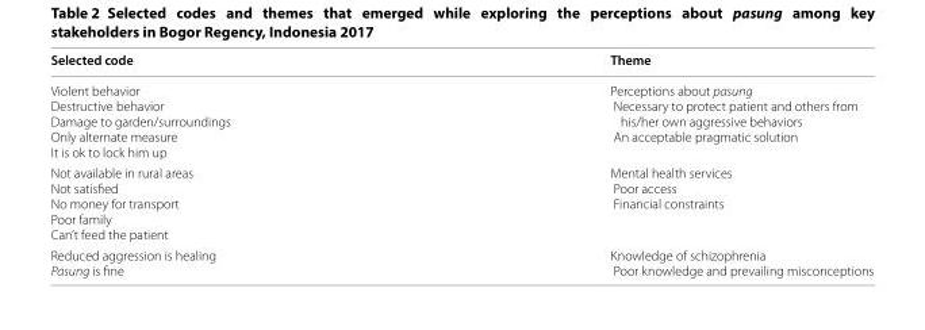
<table><thead><tr><td>Selected code</td><td>Theme</td></tr></thead><tbody><tr><td>Violent behavior Destructive behavior Damage to garden/surroundings Only alternate measure It is ok to lock him up</td><td>Perceptions about pasung Necessary to protect patient and others from his/her own aggressive behaviors An acceptable pragmatic solution</td></tr><tr><td>Not available in rural areas Not satisfied No money for transport Poor family Can’t feed the patient</td><td>Mental health services Poor access Financial constraints</td></tr><tr><td>Reduced aggression is healing Pasung is fine</td><td>Knowledge of schizophrenia Poor knowledge and prevailing misconceptions</td></tr></tbody></table>